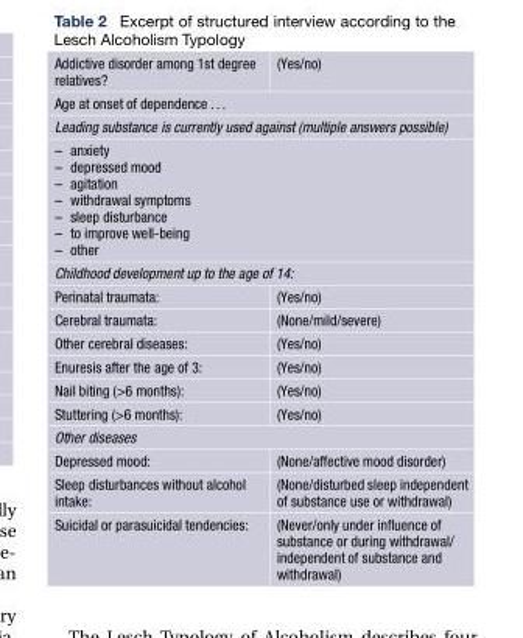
<table><tbody><tr><td>Addictive disorder among 1st degree relatives?</td><td>(Yes/no)</td></tr><tr><td colspan="2">Age at onset of dependence ...</td></tr><tr><td colspan="2">Leading substance is currently used against (multiple answers possible)</td></tr><tr><td colspan="2">– anxiety – depressed mood – agitation – withdrawal symptoms – sleep disturbance – to improve well-being – other</td></tr><tr><td colspan="2">Childhood development up to the age of 14:</td></tr><tr><td>Perinatal traumata:</td><td>(Yes/no)</td></tr><tr><td>Cerebral traumata:</td><td>(None/mild/severe)</td></tr><tr><td>Other cerebral diseases:</td><td>(Yes/no)</td></tr><tr><td>Enuresis after the age of 3:</td><td>(Yes/no)</td></tr><tr><td>Nail biting (&gt;6 months):</td><td>(Yes/no)</td></tr><tr><td>Stuttering (&gt;6 months):</td><td>(Yes/no)</td></tr><tr><td colspan="2">Other diseases</td></tr><tr><td>Depressed mood:</td><td>(None/affective mood disorder)</td></tr><tr><td>Sleep disturbances without alcohol intake:</td><td>(None/disturbed sleep independent of substance use or withdrawal)</td></tr><tr><td>Suicidal or parasuicidal tendencies:</td><td>(Never/only under influence of substance or during withdrawal/ independent of substance and withdrawal)</td></tr></tbody></table>